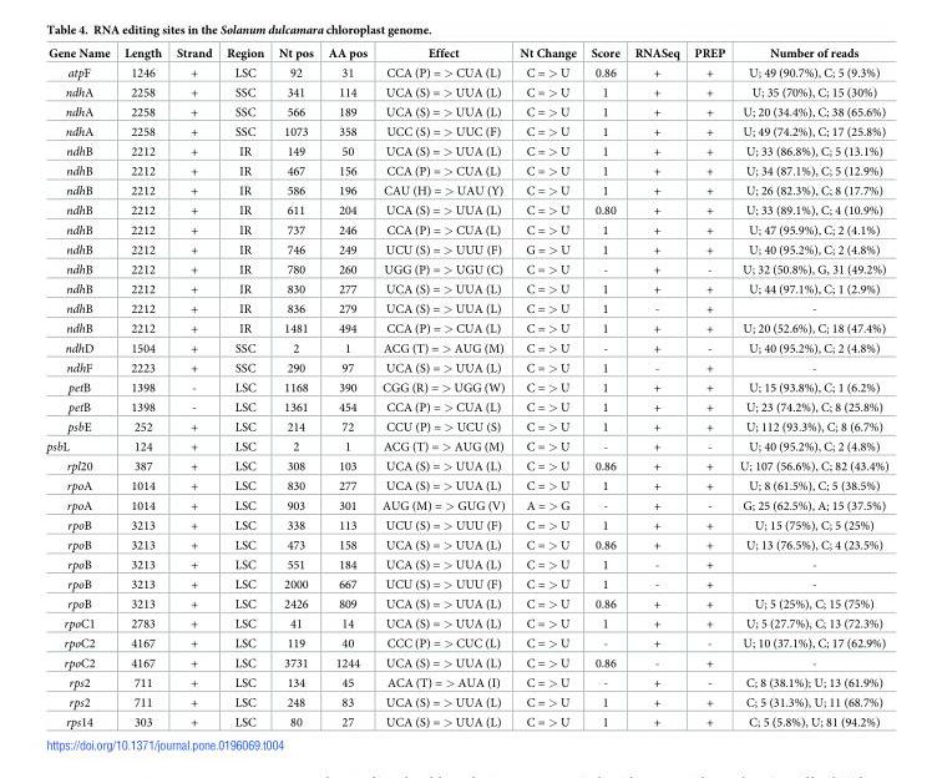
<table><thead><tr><td>Gene Name</td><td>Length</td><td>Strand</td><td>Region</td><td>Nt pos</td><td>AA pos</td><td>Effect</td><td>Nt Change</td><td>Score</td><td>RNASeq</td><td>PREP</td><td>Number of reads</td></tr></thead><tbody><tr><td>atpF</td><td>1246</td><td>+</td><td>LSC</td><td>92</td><td>31</td><td>CCA (P) = &gt; CUA (L)</td><td>C = &gt; U</td><td>0.86</td><td>+</td><td>+</td><td>U; 49 (90.7%), C; 5 (9.3%)</td></tr><tr><td>ndhA</td><td>2258</td><td>+</td><td>SSC</td><td>341</td><td>114</td><td>UCA (S) = &gt; UUA (L)</td><td>C = &gt; U</td><td>1</td><td>+</td><td>+</td><td>U; 35 (70%), C; 15 (30%)</td></tr><tr><td>ndhA</td><td>2258</td><td>+</td><td>SSC</td><td>566</td><td>189</td><td>UCA (S) = &gt; UUA (L)</td><td>C = &gt; U</td><td>1</td><td>+</td><td>+</td><td>U; 20 (34.4%), C; 38 (65.6%)</td></tr><tr><td>ndhA</td><td>2258</td><td>+</td><td>SSC</td><td>1073</td><td>358</td><td>UCC (S) = &gt; UUC (F)</td><td>C = &gt; U</td><td>1</td><td>+</td><td>+</td><td>U; 49 (74.2%), C; 17 (25.8%)</td></tr><tr><td>ndhB</td><td>2212</td><td>+</td><td>IR</td><td>149</td><td>50</td><td>UCA (S) = &gt; UUA (L)</td><td>C = &gt; U</td><td>1</td><td>+</td><td>+</td><td>U; 33 (86.8%), C; 5 (13.1%)</td></tr><tr><td>ndhB</td><td>2212</td><td>+</td><td>IR</td><td>467</td><td>156</td><td>CCA (P) = &gt; CUA (L)</td><td>C = &gt; U</td><td>1</td><td>+</td><td>+</td><td>U; 34 (87.1%), C; 5 (12.9%)</td></tr><tr><td>ndhB</td><td>2212</td><td>+</td><td>IR</td><td>586</td><td>196</td><td>CAU (H) = &gt; UAU (Y)</td><td>C = &gt; U</td><td>1</td><td>+</td><td>+</td><td>U; 26 (82.3%), C; 8 (17.7%)</td></tr><tr><td>ndhB</td><td>2212</td><td>+</td><td>IR</td><td>611</td><td>204</td><td>UCA (S) = &gt; UUA (L)</td><td>C = &gt; U</td><td>0.80</td><td>+</td><td>+</td><td>U; 33 (89.1%), C; 4 (10.9%)</td></tr><tr><td>ndhB</td><td>2212</td><td>+</td><td>IR</td><td>737</td><td>246</td><td>CCA (P) = &gt; CUA (L)</td><td>C = &gt; U</td><td>1</td><td>+</td><td>+</td><td>U; 47 (95.9%), C; 2 (4.1%)</td></tr><tr><td>ndhB</td><td>2212</td><td>+</td><td>IR</td><td>746</td><td>249</td><td>UCU (S) = &gt; UUU (F)</td><td>G = &gt; U</td><td>1</td><td>+</td><td>+</td><td>U; 40 (95.2%), C; 2 (4.8%)</td></tr><tr><td>ndhB</td><td>2212</td><td>+</td><td>IR</td><td>780</td><td>260</td><td>UGG (P) = &gt; UGU (C)</td><td>C = &gt; U</td><td>-</td><td>+</td><td>-</td><td>U; 32 (50.8%), G, 31 (49.2%)</td></tr><tr><td>ndhB</td><td>2212</td><td>+</td><td>IR</td><td>830</td><td>277</td><td>UCA (S) = &gt; UUA (L)</td><td>C = &gt; U</td><td>1</td><td>+</td><td>+</td><td>U; 44 (97.1%), C; 1 (2.9%)</td></tr><tr><td>ndhB</td><td>2212</td><td>+</td><td>IR</td><td>836</td><td>279</td><td>UCA (S) = &gt; UUA (L)</td><td>C = &gt; U</td><td>1</td><td>-</td><td>+</td><td>-</td></tr><tr><td>ndhB</td><td>2212</td><td>+</td><td>IR</td><td>1481</td><td>494</td><td>CCA (P) = &gt; CUA (L)</td><td>C = &gt; U</td><td>1</td><td>+</td><td>+</td><td>U; 20 (52.6%), C; 18 (47.4%)</td></tr><tr><td>ndhD</td><td>1504</td><td>+</td><td>SSC</td><td>2</td><td>1</td><td>ACG (T) = &gt; AUG (M)</td><td>C = &gt; U</td><td>-</td><td>+</td><td>-</td><td>U; 40 (95.2%), C; 2 (4.8%)</td></tr><tr><td>ndhF</td><td>2223</td><td>+</td><td>SSC</td><td>290</td><td>97</td><td>UCA (S) = &gt; UUA (L)</td><td>C = &gt; U</td><td>1</td><td>-</td><td>+</td><td>-</td></tr><tr><td>petB</td><td>1398</td><td>-</td><td>LSC</td><td>1168</td><td>390</td><td>CGG (R) = &gt; UGG (W)</td><td>C = &gt; U</td><td>1</td><td>+</td><td>+</td><td>U; 15 (93.8%), C; 1 (6.2%)</td></tr><tr><td>petB</td><td>1398</td><td>-</td><td>LSC</td><td>1361</td><td>454</td><td>CCA (P) = &gt; CUA (L)</td><td>C = &gt; U</td><td>1</td><td>+</td><td>+</td><td>U; 23 (74.2%), C; 8 (25.8%)</td></tr><tr><td>psbE</td><td>252</td><td>+</td><td>LSC</td><td>214</td><td>72</td><td>CCU (P) = &gt; UCU (S)</td><td>C = &gt; U</td><td>1</td><td>+</td><td>+</td><td>U; 112 (93.3%), C; 8 (6.7%)</td></tr><tr><td>psbL</td><td>124</td><td>+</td><td>LSC</td><td>2</td><td>1</td><td>ACG (T) = &gt; AUG (M)</td><td>C = &gt; U</td><td>-</td><td>+</td><td>-</td><td>U; 40 (95.2%), C; 2 (4.8%)</td></tr><tr><td>rpl20</td><td>387</td><td>+</td><td>LSC</td><td>308</td><td>103</td><td>UCA (S) = &gt; UUA (L)</td><td>C = &gt; U</td><td>0.86</td><td>+</td><td>+</td><td>U; 107 (56.6%), C; 82 (43.4%)</td></tr><tr><td>rpoA</td><td>1014</td><td>+</td><td>LSC</td><td>830</td><td>277</td><td>UCA (S) = &gt; UUA (L)</td><td>C = &gt; U</td><td>1</td><td>+</td><td>+</td><td>U; 8 (61.5%), C; 5 (38.5%)</td></tr><tr><td>rpoA</td><td>1014</td><td>+</td><td>LSC</td><td>903</td><td>301</td><td>AUG (M) = &gt; GUG (V)</td><td>A = &gt; G</td><td>-</td><td>+</td><td>-</td><td>G; 25 (62.5%), A; 15 (37.5%)</td></tr><tr><td>rpoB</td><td>3213</td><td>+</td><td>LSC</td><td>338</td><td>113</td><td>UCU (S) = &gt; UUU (F)</td><td>C = &gt; U</td><td>1</td><td>+</td><td>+</td><td>U; 15 (75%), C; 5 (25%)</td></tr><tr><td>rpoB</td><td>3213</td><td>+</td><td>LSC</td><td>473</td><td>158</td><td>UCA (S) = &gt; UUA (L)</td><td>C = &gt; U</td><td>0.86</td><td>+</td><td>+</td><td>U; 13 (76.5%), C; 4 (23.5%)</td></tr><tr><td>rpoB</td><td>3213</td><td>+</td><td>LSC</td><td>551</td><td>184</td><td>UCA (S) = &gt; UUA (L)</td><td>C = &gt; U</td><td>1</td><td>-</td><td>+</td><td>-</td></tr><tr><td>rpoB</td><td>3213</td><td>+</td><td>LSC</td><td>2000</td><td>667</td><td>UCU (S) = &gt; UUU (F)</td><td>C = &gt; U</td><td>1</td><td>-</td><td>+</td><td>-</td></tr><tr><td>rpoB</td><td>3213</td><td>+</td><td>LSC</td><td>2426</td><td>809</td><td>UCA (S) = &gt; UUA (L)</td><td>C = &gt; U</td><td>0.86</td><td>+</td><td>+</td><td>U; 5 (25%), C; 15 (75%)</td></tr><tr><td>rpoC1</td><td>2783</td><td>+</td><td>LSC</td><td>41</td><td>14</td><td>UCA (S) = &gt; UUA (L)</td><td>C = &gt; U</td><td>1</td><td>+</td><td>+</td><td>U; 5 (27.7%), C; 13 (72.3%)</td></tr><tr><td>rpoC2</td><td>4167</td><td>+</td><td>LSC</td><td>119</td><td>40</td><td>CCC (P) = &gt; CUC (L)</td><td>C = &gt; U</td><td>-</td><td>+</td><td>-</td><td>U; 10 (37.1%), C; 17 (62.9%)</td></tr><tr><td>rpoC2</td><td>4167</td><td>+</td><td>LSC</td><td>3731</td><td>1244</td><td>UCA (S) = &gt; UUA (L)</td><td>C = &gt; U</td><td>0.86</td><td>-</td><td>+</td><td>-</td></tr><tr><td>rps2</td><td>711</td><td>+</td><td>LSC</td><td>134</td><td>45</td><td>ACA (T) = &gt; AUA (I)</td><td>C = &gt; U</td><td>-</td><td>+</td><td>-</td><td>C; 8 (38.1%); U; 13 (61.9%)</td></tr><tr><td>rps2</td><td>711</td><td>+</td><td>LSC</td><td>248</td><td>83</td><td>UCA (S) = &gt; UUA (L)</td><td>C = &gt; U</td><td>1</td><td>+</td><td>+</td><td>C; 5 (31.3%), U; 11 (68.7%)</td></tr><tr><td>rps14</td><td>303</td><td>+</td><td>LSC</td><td>80</td><td>27</td><td>UCA (S) = &gt; UUA (L)</td><td>C = &gt; U</td><td>1</td><td>+</td><td>+</td><td>C; 5 (5.8%), U; 81 (94.2%)</td></tr></tbody></table>